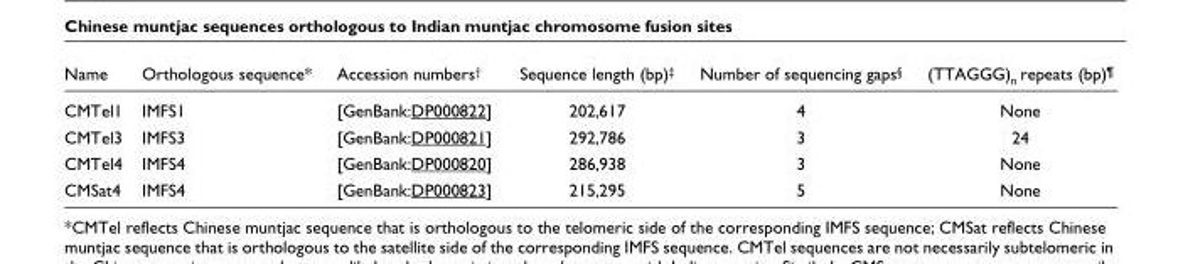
<table><thead><tr><td>Name</td><td>Orthologous sequence*</td><td>Accession numbers<sup>†</sup></td><td>Sequence length (bp)<sup>‡</sup></td><td>Number of sequencing gaps<sup>§</sup></td><td>(TTAGGG)<sub>n</sub> repeats (bp)<sup>¶</sup></td></tr></thead><tbody><tr><td>CMTel1</td><td>IMFS1</td><td>[GenBank:DP000822]</td><td>202,617</td><td>4</td><td>None</td></tr><tr><td>CMTel3</td><td>IMFS3</td><td>[GenBank:DP000821]</td><td>292,786</td><td>3</td><td>24</td></tr><tr><td>CMTel4</td><td>IMFS4</td><td>[GenBank:DP000820]</td><td>286,938</td><td>3</td><td>None</td></tr><tr><td>CMSat4</td><td>IMFS4</td><td>[GenBank:DP000823]</td><td>215,295</td><td>5</td><td>None</td></tr></tbody></table>